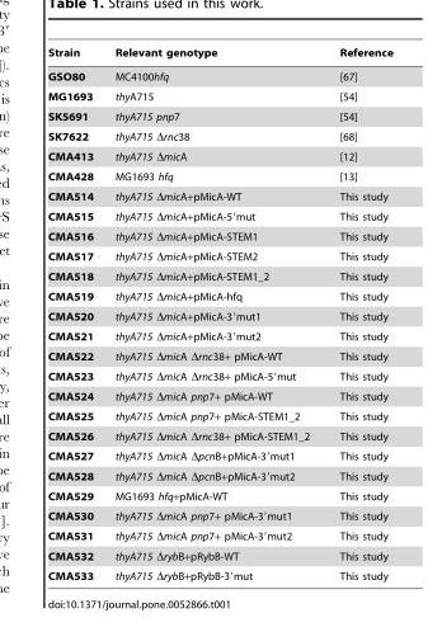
<table><thead><tr><td>Strain</td><td>Relevant genotype</td><td>Reference</td></tr></thead><tbody><tr><td>GSO80</td><td>MC4100hfq</td><td>[67]</td></tr><tr><td>MG1693</td><td>thyA715</td><td>[54]</td></tr><tr><td>SK5691</td><td>thyA715 pnp7</td><td>[54]</td></tr><tr><td>SK7622</td><td>thyA715 Δrnc38</td><td>[68]</td></tr><tr><td>CMA413</td><td>thyA715 ΔmicA</td><td>[12]</td></tr><tr><td>CMA428</td><td>MG1693 hfq</td><td>[13]</td></tr><tr><td>CMA514</td><td>thyA715 ΔmicA+pMicA-WT</td><td>This study</td></tr><tr><td>CMA515</td><td>thyA715 ΔmicA+pMicA-5′mut</td><td>This study</td></tr><tr><td>CMA516</td><td>thyA715 ΔmicA+pMicA-STEM1</td><td>This study</td></tr><tr><td>CMA517</td><td>thyA715 ΔmicA+pMicA-STEM2</td><td>This study</td></tr><tr><td>CMA518</td><td>thyA715 ΔmicA+pMicA-STEM1_2</td><td>This study</td></tr><tr><td>CMA519</td><td>thyA715 ΔmicA+pMicA-hfq</td><td>This study</td></tr><tr><td>CMA520</td><td>thyA715 ΔmicA+pMicA-3′mut1</td><td>This study</td></tr><tr><td>CMA521</td><td>thyA715 ΔmicA+pMicA-3′mut2</td><td>This study</td></tr><tr><td>CMA522</td><td>thyA715 ΔmicA Δrnc38+ pMicA-WT</td><td>This study</td></tr><tr><td>CMA523</td><td>thyA715 ΔmicA Δrnc38+ pMicA-5′mut</td><td>This study</td></tr><tr><td>CMA524</td><td>thyA715 ΔmicA pnp7+ pMicA-WT</td><td>This study</td></tr><tr><td>CMA525</td><td>thyA715 ΔmicA pnp7+ pMicA-STEM1_2</td><td>This study</td></tr><tr><td>CMA526</td><td>thyA715 ΔmicA Δrnc38+ pMicA-STEM1_2</td><td>This study</td></tr><tr><td>CMA527</td><td>thyA715 ΔmicA ΔpcnB+pMicA-3′mut1</td><td>This study</td></tr><tr><td>CMA528</td><td>thyA715 ΔmicA ΔpcnB+pMicA-3′mut2</td><td>This study</td></tr><tr><td>CMA529</td><td>MG1693 hfq+pMicA-WT</td><td>This study</td></tr><tr><td>CMA530</td><td>thyA715 ΔmicA pnp7+ pMicA-3′mut1</td><td>This study</td></tr><tr><td>CMA531</td><td>thyA715 ΔmicA pnp7+ pMicA-3′mut2</td><td>This study</td></tr><tr><td>CMA532</td><td>thyA715 ΔrybB+pRybB-WT</td><td>This study</td></tr><tr><td>CMA533</td><td>thyA715 ΔrybB+pRybB-3′mut</td><td>This study</td></tr></tbody></table>